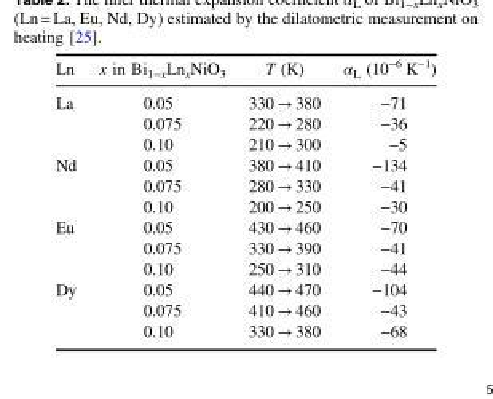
<table><thead><tr><td>Ln</td><td>x in Bi<sub>1−x</sub>Ln<sub>x</sub>NiO<sub>3</sub></td><td>T (K)</td><td>α<sub>L</sub> (10<sup>−6</sup> K<sup>–1</sup>)</td></tr></thead><tbody><tr><td rowspan="3">La</td><td>0.05</td><td>330 → 380</td><td>−71</td></tr><tr><td>0.075</td><td>220 → 280</td><td>−36</td></tr><tr><td>0.10</td><td>210 → 300</td><td>−5</td></tr><tr><td rowspan="3">Nd</td><td>0.05</td><td>380 → 410</td><td>−134</td></tr><tr><td>0.075</td><td>280 → 330</td><td>−41</td></tr><tr><td>0.10</td><td>200 → 250</td><td>−30</td></tr><tr><td rowspan="3">Eu</td><td>0.05</td><td>430 → 460</td><td>−70</td></tr><tr><td>0.075</td><td>330 → 390</td><td>−41</td></tr><tr><td>0.10</td><td>250 → 310</td><td>−44</td></tr><tr><td rowspan="3">Dy</td><td>0.05</td><td>440 → 470</td><td>−104</td></tr><tr><td>0.075</td><td>410 → 460</td><td>−43</td></tr><tr><td>0.10</td><td>330 → 380</td><td>−68</td></tr></tbody></table>